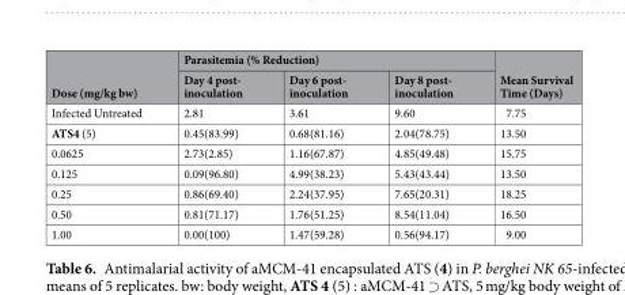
<table><thead><tr><td rowspan="2">Dose (mg/kg bw)</td><td colspan="3">Parasitemia (% Reduction)</td><td rowspan="2">Mean Survival Time (Days)</td></tr><tr><td>Day 4 post- inoculation</td><td>Day 6 post- inoculation</td><td>Day 8 post- inoculation</td></tr></thead><tbody><tr><td>Infected Untreated</td><td>2.81</td><td>3.61</td><td>9.60</td><td>7.75</td></tr><tr><td>ATS4 (5)</td><td>0.45(83.99)</td><td>0.68(81.16)</td><td>2.04(78.75)</td><td>13.50</td></tr><tr><td>0.0625</td><td>2.73(2.85)</td><td>1.16(67.87)</td><td>4.85(49.48)</td><td>15.75</td></tr><tr><td>0.125</td><td>0.09(96.80)</td><td>4.99(38.23)</td><td>5.43(43.44)</td><td>13.50</td></tr><tr><td>0.25</td><td>0.86(69.40)</td><td>2.24(37.95)</td><td>7.65(20.31)</td><td>18.25</td></tr><tr><td>0.50</td><td>0.81(71.17)</td><td>1.76(51.25)</td><td>8.54(11.04)</td><td>16.50</td></tr><tr><td>1.00</td><td>0.00(100)</td><td>1.47(59.28)</td><td>0.56(94.17)</td><td>9.00</td></tr></tbody></table>